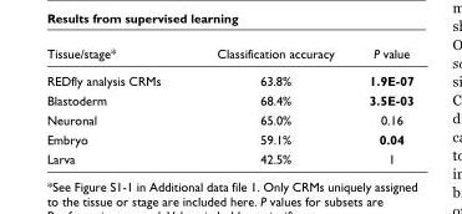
<table><thead><tr><td>Tissue/stage*</td><td>Classification accuracy</td><td>P value</td></tr></thead><tbody><tr><td>REDfly analysis CRMs</td><td>63.8%</td><td>1.9E-07</td></tr><tr><td>Blastoderm</td><td>68.4%</td><td>3.5E-03</td></tr><tr><td>Neuronal</td><td>65.0%</td><td>0.16</td></tr><tr><td>Embryo</td><td>59.1%</td><td>0.04</td></tr><tr><td>Larva</td><td>42.5%</td><td>1</td></tr></tbody></table>